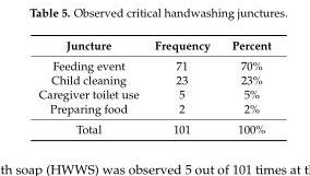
<table><thead><tr><td>Juncture</td><td>Frequency</td><td>Percent</td></tr></thead><tbody><tr><td>Feeding event</td><td>71</td><td>70%</td></tr><tr><td>Child cleaning</td><td>23</td><td>23%</td></tr><tr><td>Caregiver toilet use</td><td>5</td><td>5%</td></tr><tr><td>Preparing food</td><td>2</td><td>2%</td></tr><tr><td>Total</td><td>101</td><td>100%</td></tr></tbody></table>